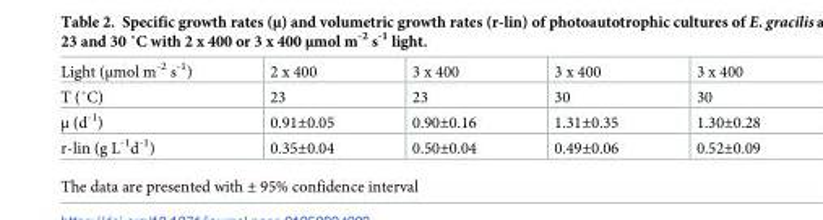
<table><tbody><tr><td>Light (μmol m<sup>-2</sup> s<sup>-1</sup>)</td><td>2 x 400</td><td>3 x 400</td><td>3 x 400</td><td>3 x 400</td></tr><tr><td>T (˚C)</td><td>23</td><td>23</td><td>30</td><td>30</td></tr><tr><td>μ (d<sup>-1</sup>)</td><td>0.91±0.05</td><td>0.90±0.16</td><td>1.31±0.35</td><td>1.30±0.28</td></tr><tr><td>r-lin (g L<sup>-1</sup>d<sup>-1</sup>)</td><td>0.35±0.04</td><td>0.50±0.04</td><td>0.49±0.06</td><td>0.52±0.09</td></tr></tbody></table>